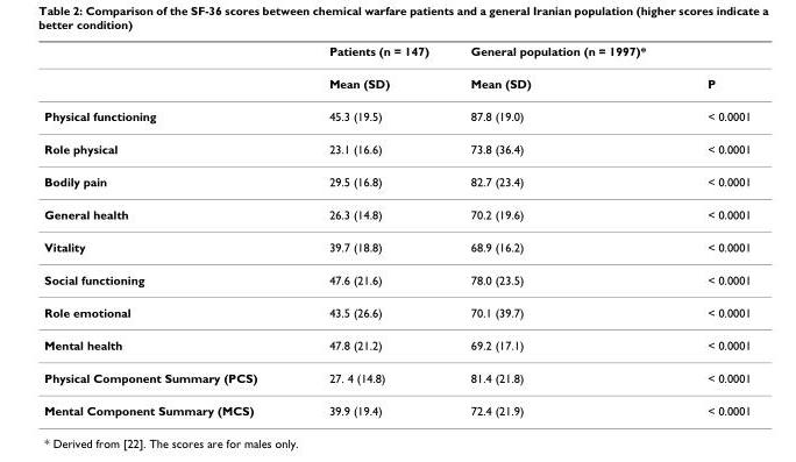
<table><thead><tr><td></td><td>Patients (n = 147)</td><td>General population (n = 1997)*</td><td></td></tr></thead><tbody><tr><td></td><td>Mean (SD)</td><td>Mean (SD)</td><td>P</td></tr><tr><td>Physical functioning</td><td>45.3 (19.5)</td><td>87.8 (19.0)</td><td>&lt; 0.0001</td></tr><tr><td>Role physical</td><td>23.1 (16.6)</td><td>73.8 (36.4)</td><td>&lt; 0.0001</td></tr><tr><td>Bodily pain</td><td>29.5 (16.8)</td><td>82.7 (23.4)</td><td>&lt; 0.0001</td></tr><tr><td>General health</td><td>26.3 (14.8)</td><td>70.2 (19.6)</td><td>&lt; 0.0001</td></tr><tr><td>Vitality</td><td>39.7 (18.8)</td><td>68.9 (16.2)</td><td>&lt; 0.0001</td></tr><tr><td>Social functioning</td><td>47.6 (21.6)</td><td>78.0 (23.5)</td><td>&lt; 0.0001</td></tr><tr><td>Role emotional</td><td>43.5 (26.6)</td><td>70.1 (39.7)</td><td>&lt; 0.0001</td></tr><tr><td>Mental health</td><td>47.8 (21.2)</td><td>69.2 (17.1)</td><td>&lt; 0.0001</td></tr><tr><td>Physical Component Summary (PCS)</td><td>27. 4 (14.8)</td><td>81.4 (21.8)</td><td>&lt; 0.0001</td></tr><tr><td>Mental Component Summary (MCS)</td><td>39.9 (19.4)</td><td>72.4 (21.9)</td><td>&lt; 0.0001</td></tr></tbody></table>